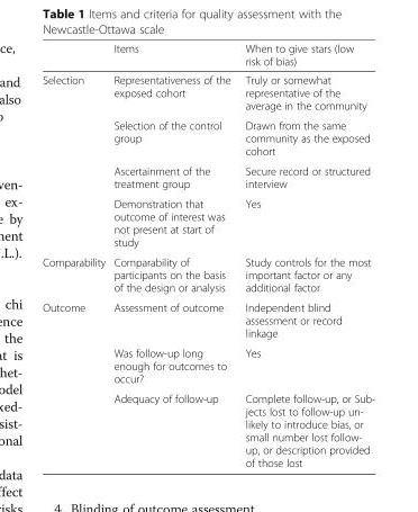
<table><thead><tr><td></td><td>Items</td><td>When to give stars (low risk of bias)</td></tr></thead><tbody><tr><td rowspan="4">Selection</td><td>Representativeness of the exposed cohort</td><td>Truly or somewhat representative of the average in the community</td></tr><tr><td>Selection of the control group</td><td>Drawn from the same community as the exposed cohort</td></tr><tr><td>Ascertainment of the treatment group</td><td>Secure record or structured interview</td></tr><tr><td>Demonstration that outcome of interest was not present at start of study</td><td>Yes</td></tr><tr><td>Comparability</td><td>Comparability of participants on the basis of the design or analysis</td><td>Study controls for the most important factor or any additional factor</td></tr><tr><td rowspan="3">Outcome</td><td>Assessment of outcome</td><td>Independent blind assessment or record linkage</td></tr><tr><td>Was follow-up long enough for outcomes to occur?</td><td>Yes</td></tr><tr><td>Adequacy of follow-up</td><td>Complete follow-up, or Sub- jects lost to follow-up un- likely to introduce bias, or small number lost follow- up, or description provided of those lost</td></tr></tbody></table>